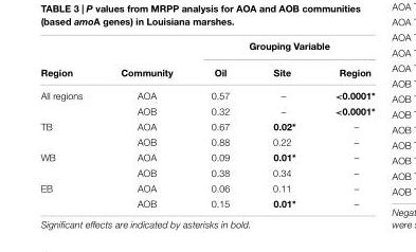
<table><thead><tr><td rowspan="2">Region</td><td rowspan="2">Community</td><td colspan="3">Grouping Variable</td></tr><tr><td>Oil</td><td>Site</td><td>Region</td></tr></thead><tbody><tr><td rowspan="2">All regions</td><td>AOA</td><td>0.57</td><td>–</td><td>&lt;0.0001∗</td></tr><tr><td>AOB</td><td>0.32</td><td>–</td><td>&lt;0.0001∗</td></tr><tr><td rowspan="2">TB</td><td>AOA</td><td>0.67</td><td>0.02∗</td><td>–</td></tr><tr><td>AOB</td><td>0.88</td><td>0.22</td><td>–</td></tr><tr><td rowspan="2">WB</td><td>AOA</td><td>0.09</td><td>0.01∗</td><td>–</td></tr><tr><td>AOB</td><td>0.38</td><td>0.34</td><td>–</td></tr><tr><td rowspan="2">EB</td><td>AOA</td><td>0.06</td><td>0.11</td><td>–</td></tr><tr><td>AOB</td><td>0.15</td><td>0.01∗</td><td>–</td></tr></tbody></table>